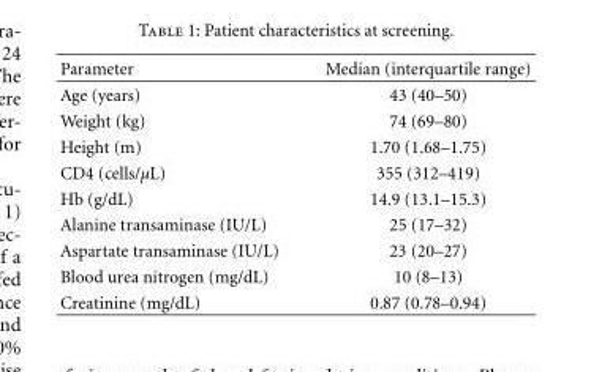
<table><thead><tr><td>Parameter</td><td>Median (interquartile range)</td></tr></thead><tbody><tr><td>Age (years)</td><td>43 (40–50)</td></tr><tr><td>Weight (kg)</td><td>74 (69–80)</td></tr><tr><td>Height (m)</td><td>1.70 (1.68–1.75)</td></tr><tr><td>CD4 (cells/µL)</td><td>355 (312–419)</td></tr><tr><td>Hb (g/dL)</td><td>14.9 (13.1–15.3)</td></tr><tr><td>Alanine transaminase (IU/L)</td><td>25 (17–32)</td></tr><tr><td>Aspartate transaminase (IU/L)</td><td>23 (20–27)</td></tr><tr><td>Blood urea nitrogen (mg/dL)</td><td>10 (8–13)</td></tr><tr><td>Creatinine (mg/dL)</td><td>0.87 (0.78–0.94)</td></tr></tbody></table>